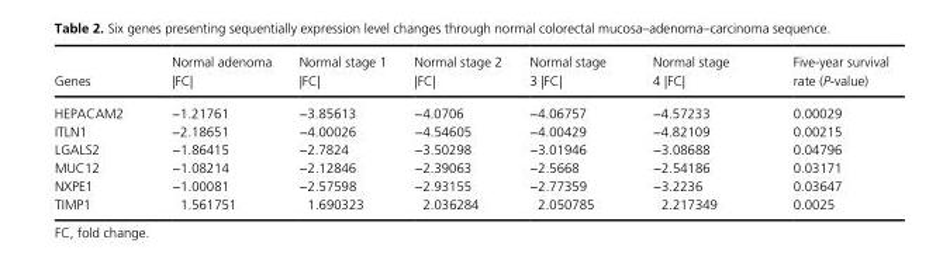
<table><thead><tr><td>Genes</td><td>Normal adenoma |FC|</td><td>Normal stage 1 |FC|</td><td>Normal stage 2 |FC|</td><td>Normal stage 3 |FC|</td><td>Normal stage 4 |FC|</td><td>Five- year survival rate (P- value)</td></tr></thead><tbody><tr><td>HEPACAM2</td><td>−1.21761</td><td>−3.85613</td><td>−4.0706</td><td>−4.06757</td><td>−4.57233</td><td>0.00029</td></tr><tr><td>ITLN1</td><td>−2.18651</td><td>−4.00026</td><td>−4.54605</td><td>−4.00429</td><td>−4.82109</td><td>0.00215</td></tr><tr><td>LGALS2</td><td>−1.86415</td><td>−2.7824</td><td>−3.50298</td><td>−3.01946</td><td>−3.08688</td><td>0.04796</td></tr><tr><td>MUC12</td><td>−1.08214</td><td>−2.12846</td><td>−2.39063</td><td>−2.5668</td><td>−2.54186</td><td>0.03171</td></tr><tr><td>NXPE1</td><td>−1.00081</td><td>−2.57598</td><td>−2.93155</td><td>−2.77359</td><td>−3.2236</td><td>0.03647</td></tr><tr><td>TIMP1</td><td>1.561751</td><td>1.690323</td><td>2.036284</td><td>2.050785</td><td>2.217349</td><td>0.0025</td></tr></tbody></table>